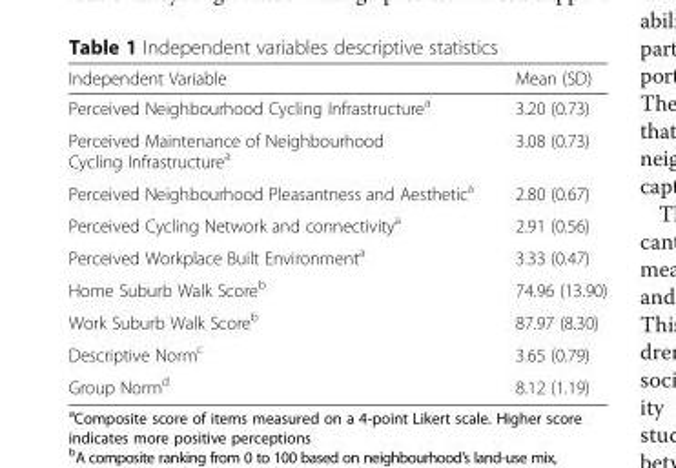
<table><thead><tr><td>Independent Variable</td><td>Mean (SD)</td></tr></thead><tbody><tr><td>Perceived Neighbourhood Cycling Infrastructure<sup>a</sup></td><td>3.20 (0.73)</td></tr><tr><td>Perceived Maintenance of Neighbourhood Cycling Infrastructure<sup>a</sup></td><td>3.08 (0.73)</td></tr><tr><td>Perceived Neighbourhood Pleasantness and Aesthetic<sup>a</sup></td><td>2.80 (0.67)</td></tr><tr><td>Perceived Cycling Network and connectivity<sup>a</sup></td><td>2.91 (0.56)</td></tr><tr><td>Perceived Workplace Built Environment<sup>a</sup></td><td>3.33 (0.47)</td></tr><tr><td>Home Suburb Walk Score<sup>b</sup></td><td>74.96 (13.90)</td></tr><tr><td>Work Suburb Walk Score<sup>b</sup></td><td>87.97 (8.30)</td></tr><tr><td>Descriptive Norm<sup>c</sup></td><td>3.65 (0.79)</td></tr><tr><td>Group Norm<sup>d</sup></td><td>8.12 (1.19)</td></tr></tbody></table>